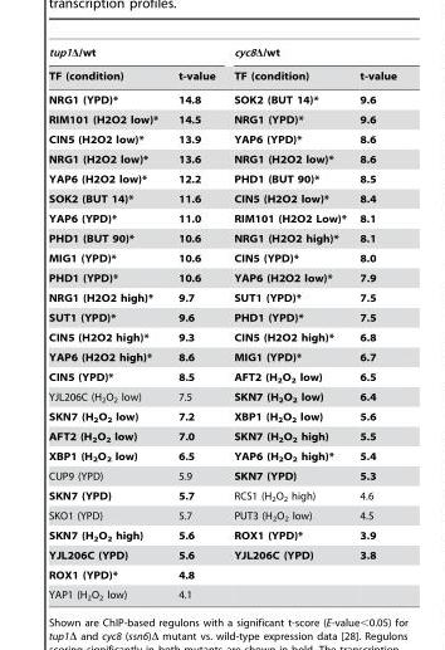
<table><thead><tr><td colspan="2">tup1Δ/wt</td><td colspan="2">cyc8Δ/wt</td></tr><tr><td>TF (condition)</td><td>t-value</td><td>TF (condition)</td><td>t-value</td></tr></thead><tbody><tr><td>NRG1 (YPD)*</td><td>14.8</td><td>SOK2 (BUT 14)*</td><td>9.6</td></tr><tr><td>RIM101 (H2O2 low)*</td><td>14.5</td><td>NRG1 (YPD)*</td><td>9.6</td></tr><tr><td>CIN5 (H2O2 low)*</td><td>13.9</td><td>YAP6 (YPD)*</td><td>8.6</td></tr><tr><td>NRG1 (H2O2 low)*</td><td>13.6</td><td>NRG1 (H2O2 low)*</td><td>8.6</td></tr><tr><td>YAP6 (H2O2 low)*</td><td>12.2</td><td>PHD1 (BUT 90)*</td><td>8.5</td></tr><tr><td>SOK2 (BUT 14)*</td><td>11.6</td><td>CIN5 (H2O2 low)*</td><td>8.4</td></tr><tr><td>YAP6 (YPD)*</td><td>11.0</td><td>RIM101 (H2O2 Low)*</td><td>8.1</td></tr><tr><td>PHD1 (BUT 90)*</td><td>10.6</td><td>NRG1 (H2O2 high)*</td><td>8.1</td></tr><tr><td>MIG1 (YPD)*</td><td>10.6</td><td>CIN5 (YPD)*</td><td>8.0</td></tr><tr><td>PHD1 (YPD)*</td><td>10.6</td><td>YAP6 (H2O2 low)*</td><td>7.9</td></tr><tr><td>NRG1 (H2O2 high)*</td><td>9.7</td><td>SUT1 (YPD)*</td><td>7.5</td></tr><tr><td>SUT1 (YPD)*</td><td>9.6</td><td>PHD1 (YPD)*</td><td>7.5</td></tr><tr><td>CIN5 (H2O2 high)*</td><td>9.3</td><td>CIN5 (H2O2 high)*</td><td>6.8</td></tr><tr><td>YAP6 (H2O2 high)*</td><td>8.6</td><td>MIG1 (YPD)*</td><td>6.7</td></tr><tr><td>CIN5 (YPD)*</td><td>8.5</td><td>AFT2 (H<sub>2</sub>O<sub>2</sub> low)</td><td>6.5</td></tr><tr><td>YJL206C (H<sub>2</sub>O<sub>2</sub> low)</td><td>7.5</td><td>SKN7 (H<sub>2</sub>O<sub>2</sub> low)</td><td>6.4</td></tr><tr><td>SKN7 (H<sub>2</sub>O<sub>2</sub> low)</td><td>7.2</td><td>XBP1 (H<sub>2</sub>O<sub>2</sub> low)</td><td>5.6</td></tr><tr><td>AFT2 (H<sub>2</sub>O<sub>2</sub> low)</td><td>7.0</td><td>SKN7 (H<sub>2</sub>O<sub>2</sub> high)</td><td>5.5</td></tr><tr><td>XBP1 (H<sub>2</sub>O<sub>2</sub> low)</td><td>6.5</td><td>YAP6 (H<sub>2</sub>O<sub>2</sub> high)*</td><td>5.4</td></tr><tr><td>CUP9 (YPD)</td><td>5.9</td><td>SKN7 (YPD)</td><td>5.3</td></tr><tr><td>SKN7 (YPD)</td><td>5.7</td><td>RCS1 (H<sub>2</sub>O<sub>2</sub> high)</td><td>4.6</td></tr><tr><td>SKO1 (YPD)</td><td>5.7</td><td>PUT3 (H<sub>2</sub>O<sub>2</sub> low)</td><td>4.5</td></tr><tr><td>SKN7 (H<sub>2</sub>O<sub>2</sub> high)</td><td>5.6</td><td>ROX1 (YPD)*</td><td>3.9</td></tr><tr><td>YJL206C (YPD)</td><td>5.6</td><td>YJL206C (YPD)</td><td>3.8</td></tr><tr><td>ROX1 (YPD)*</td><td>4.8</td><td></td><td></td></tr><tr><td>YAP1 (H<sub>2</sub>O<sub>2</sub> low)</td><td>4.1</td><td></td><td></td></tr></tbody></table>